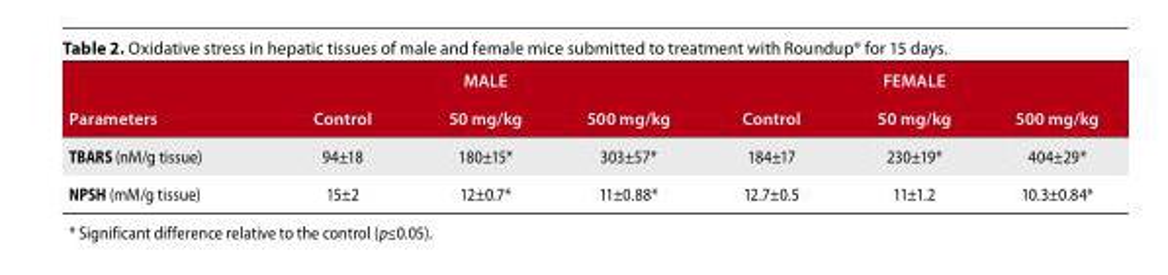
<table><thead><tr><td rowspan="2">Parameters</td><td colspan="3">MALE</td><td colspan="3">FEMALE</td></tr><tr><td>Control</td><td>50 mg/kg</td><td>500 mg/kg</td><td>Control</td><td>50 mg/kg</td><td>500 mg/kg</td></tr></thead><tbody><tr><td>TBARS (nM/g tissue)</td><td>94±18</td><td>180±15*</td><td>303±57*</td><td>184±17</td><td>230±19*</td><td>404±29*</td></tr><tr><td>NPSH (mM/g tissue)</td><td>15±2</td><td>12±0.7*</td><td>11±0.88*</td><td>12.7±0.5</td><td>11±1.2</td><td>10.3±0.84*</td></tr></tbody></table>